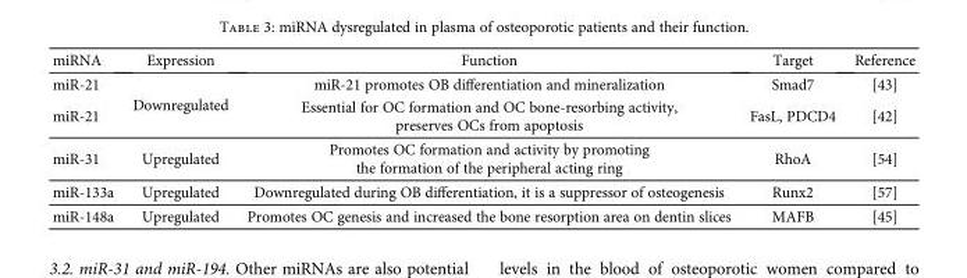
<table><thead><tr><td>miRNA</td><td>Expression</td><td>Function</td><td>Target</td><td>Reference</td></tr></thead><tbody><tr><td>miR-21</td><td rowspan="2">Downregulated</td><td>miR-21 promotes OB differentiation and mineralization</td><td>Smad7</td><td>[43]</td></tr><tr><td>miR-21</td><td>Essential for OC formation and OC bone-resorbing activity, preserves OCs from apoptosis</td><td>FasL, PDCD4</td><td>[42]</td></tr><tr><td>miR-31</td><td>Upregulated</td><td>Promotes OC formation and activity by promoting the formation of the peripheral acting ring</td><td>RhoA</td><td>[54]</td></tr><tr><td>miR-133a</td><td>Upregulated</td><td>Downregulated during OB differentiation, it is a suppressor of osteogenesis</td><td>Runx2</td><td>[57]</td></tr><tr><td>miR-148a</td><td>Upregulated</td><td>Promotes OC genesis and increased the bone resorption area on dentin slices</td><td>MAFB</td><td>[45]</td></tr></tbody></table>